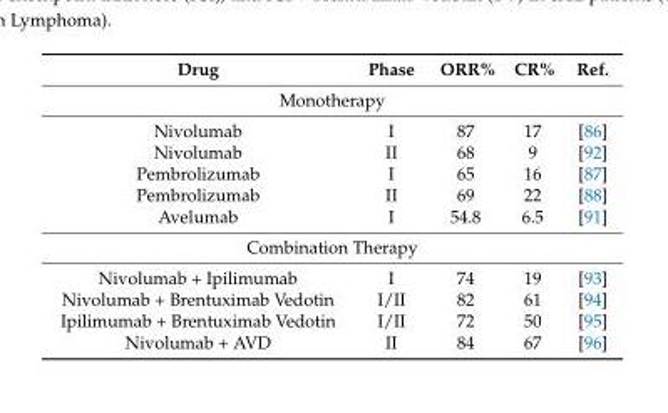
<table><thead><tr><td>Drug</td><td>Phase</td><td>ORR%</td><td>CR%</td><td>Ref.</td></tr></thead><tbody><tr><td colspan="5">Monotherapy</td></tr><tr><td>Nivolumab</td><td>I</td><td>87</td><td>17</td><td>[86]</td></tr><tr><td>Nivolumab</td><td>II</td><td>68</td><td>9</td><td>[92]</td></tr><tr><td>Pembrolizumab</td><td>I</td><td>65</td><td>16</td><td>[87]</td></tr><tr><td>Pembrolizumab</td><td>II</td><td>69</td><td>22</td><td>[88]</td></tr><tr><td>Avelumab</td><td>I</td><td>54.8</td><td>6.5</td><td>[91]</td></tr><tr><td colspan="5">Combination Therapy</td></tr><tr><td>Nivolumab + Ipilimumab</td><td>I</td><td>74</td><td>19</td><td>[93]</td></tr><tr><td>Nivolumab + Brentuximab Vedotin</td><td>I/II</td><td>82</td><td>61</td><td>[94]</td></tr><tr><td>Ipilimumab + Brentuximab Vedotin</td><td>I/II</td><td>72</td><td>50</td><td>[95]</td></tr><tr><td>Nivolumab + AVD</td><td>II</td><td>84</td><td>67</td><td>[96]</td></tr></tbody></table>